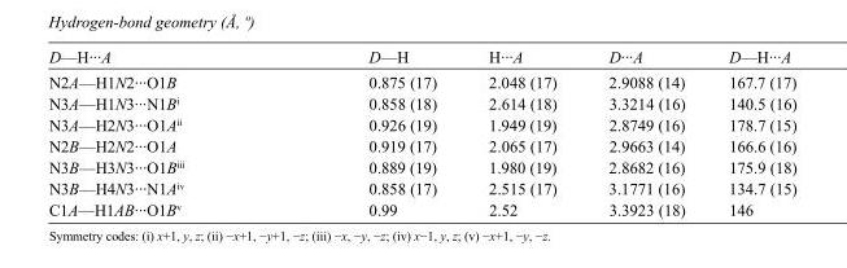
<table><tbody><tr><td>D—H···A</td><td>D—H</td><td>H···A</td><td>D···A</td><td>D—H···A</td></tr><tr><td>N2A—H1N2···O1B</td><td>0.875 (17)</td><td>2.048 (17)</td><td>2.9088 (14)</td><td>167.7 (17)</td></tr><tr><td>N3A—H1N3···N1B<sup>i</sup></td><td>0.858 (18)</td><td>2.614 (18)</td><td>3.3214 (16)</td><td>140.5 (16)</td></tr><tr><td>N3A—H2N3···O1A<sup>ii</sup></td><td>0.926 (19)</td><td>1.949 (19)</td><td>2.8749 (16)</td><td>178.7 (15)</td></tr><tr><td>N2B—H2N2···O1A</td><td>0.919 (17)</td><td>2.065 (17)</td><td>2.9663 (14)</td><td>166.6 (16)</td></tr><tr><td>N3B—H3N3···O1B<sup>iii</sup></td><td>0.889 (19)</td><td>1.980 (19)</td><td>2.8682 (16)</td><td>175.9 (18)</td></tr><tr><td>N3B—H4N3···N1A<sup>iv</sup></td><td>0.858 (17)</td><td>2.515 (17)</td><td>3.1771 (16)</td><td>134.7 (15)</td></tr><tr><td>C1A—H1AB···O1B<sup>v</sup></td><td>0.99</td><td>2.52</td><td>3.3923 (18)</td><td>146</td></tr></tbody></table>